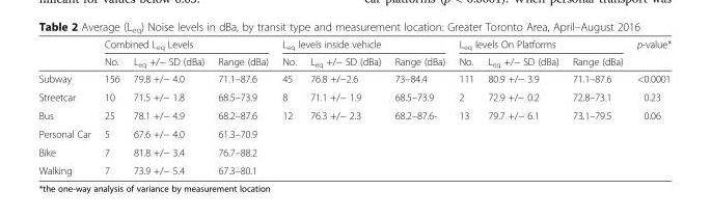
<table><thead><tr><td rowspan="2"></td><td colspan="3">Combined L<sub>eq</sub> Levels</td><td colspan="3">L<sub>eq</sub> levels inside vehicle</td><td colspan="3">L<sub>eq</sub> levels On Platforms</td><td rowspan="2">p-value*</td></tr><tr><td>No.</td><td>L<sub>eq</sub> +/− SD (dBa)</td><td>Range (dBa)</td><td>No.</td><td>L<sub>eq</sub> +/− SD (dBa)</td><td>Range (dBa)</td><td>No.</td><td>L<sub>eq</sub> +/− SD (dBa)</td><td>Range (dBa)</td></tr></thead><tbody><tr><td>Subway</td><td>156</td><td>79.8 +/− 4.0</td><td>71.1–87.6</td><td>45</td><td>76.8 +/−2.6</td><td>73–84.4</td><td>111</td><td>80.9 +/− 3.9</td><td>71.1–87.6</td><td>&lt;0.0001</td></tr><tr><td>Streetcar</td><td>10</td><td>71.5 +/− 1.8</td><td>68.5–73.9</td><td>8</td><td>71.1 +/− 1.9</td><td>68.5–73.9</td><td>2</td><td>72.9 +/− 0.2</td><td>72.8–73.1</td><td>0.23</td></tr><tr><td>Bus</td><td>25</td><td>78.1 +/− 4.9</td><td>68.2–87.6</td><td>12</td><td>76.3 +/− 2.3</td><td>68.2–87.6-</td><td>13</td><td>79.7 +/− 6.1</td><td>73.1–79.5</td><td>0.06</td></tr><tr><td>Personal Car</td><td>5</td><td>67.6 +/− 4.0</td><td>61.3–70.9</td><td></td><td></td><td></td><td></td><td></td><td></td><td></td></tr><tr><td>Bike</td><td>7</td><td>81.8 +/− 3.4</td><td>76.7–88.2</td><td></td><td></td><td></td><td></td><td></td><td></td><td></td></tr><tr><td>Walking</td><td>7</td><td>73.9 +/− 5.4</td><td>67.3–80.1</td><td></td><td></td><td></td><td></td><td></td><td></td><td></td></tr></tbody></table>